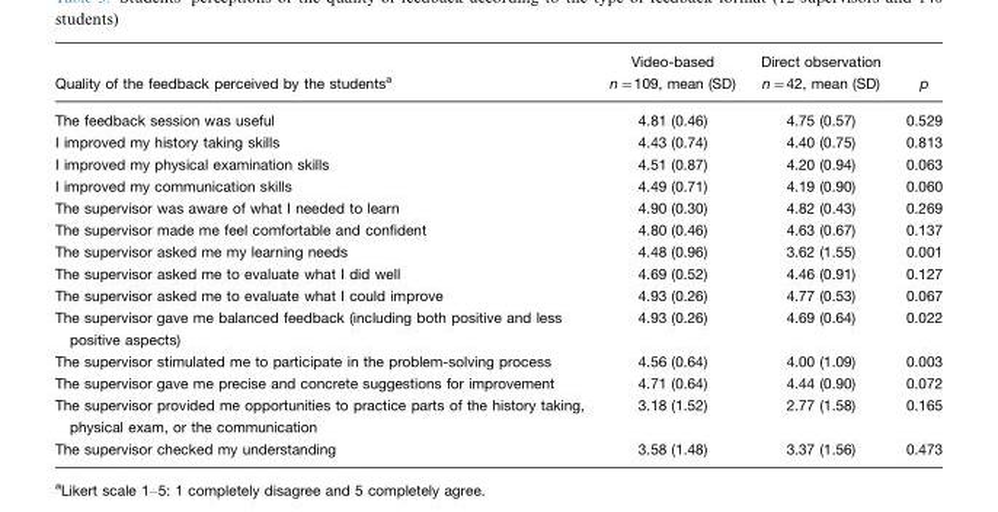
<table><thead><tr><td>Quality of the feedback perceived by the students<sup>a</sup></td><td>Video-based n=109, mean (SD)</td><td>Direct observation n=42, mean (SD)</td><td>p</td></tr></thead><tbody><tr><td>The feedback session was useful</td><td>4.81 (0.46)</td><td>4.75 (0.57)</td><td>0.529</td></tr><tr><td>I improved my history taking skills</td><td>4.43 (0.74)</td><td>4.40 (0.75)</td><td>0.813</td></tr><tr><td>I improved my physical examination skills</td><td>4.51 (0.87)</td><td>4.20 (0.94)</td><td>0.063</td></tr><tr><td>I improved my communication skills</td><td>4.49 (0.71)</td><td>4.19 (0.90)</td><td>0.060</td></tr><tr><td>The supervisor was aware of what I needed to learn</td><td>4.90 (0.30)</td><td>4.82 (0.43)</td><td>0.269</td></tr><tr><td>The supervisor made me feel comfortable and confident</td><td>4.80 (0.46)</td><td>4.63 (0.67)</td><td>0.137</td></tr><tr><td>The supervisor asked me my learning needs</td><td>4.48 (0.96)</td><td>3.62 (1.55)</td><td>0.001</td></tr><tr><td>The supervisor asked me to evaluate what I did well</td><td>4.69 (0.52)</td><td>4.46 (0.91)</td><td>0.127</td></tr><tr><td>The supervisor asked me to evaluate what I could improve</td><td>4.93 (0.26)</td><td>4.77 (0.53)</td><td>0.067</td></tr><tr><td>The supervisor gave me balanced feedback (including both positive and less positive aspects)</td><td>4.93 (0.26)</td><td>4.69 (0.64)</td><td>0.022</td></tr><tr><td>The supervisor stimulated me to participate in the problem-solving process</td><td>4.56 (0.64)</td><td>4.00 (1.09)</td><td>0.003</td></tr><tr><td>The supervisor gave me precise and concrete suggestions for improvement</td><td>4.71 (0.64)</td><td>4.44 (0.90)</td><td>0.072</td></tr><tr><td>The supervisor provided me opportunities to practice parts of the history taking, physical exam, or the communication</td><td>3.18 (1.52)</td><td>2.77 (1.58)</td><td>0.165</td></tr><tr><td>The supervisor checked my understanding</td><td>3.58 (1.48)</td><td>3.37 (1.56)</td><td>0.473</td></tr></tbody></table>